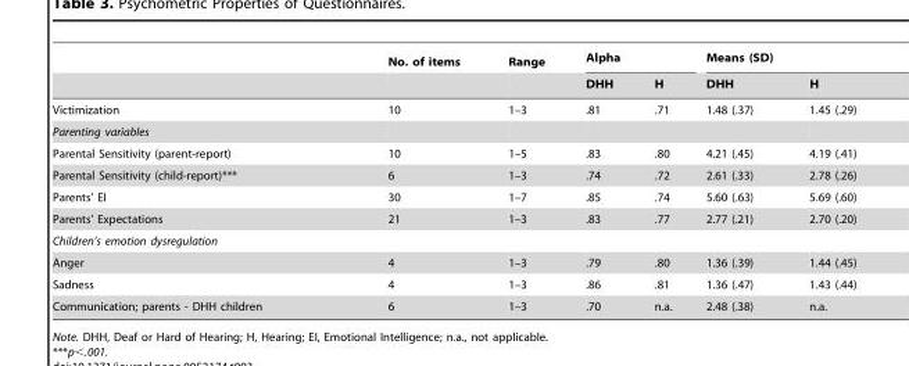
<table><thead><tr><td rowspan="2"></td><td rowspan="2">No. of items</td><td rowspan="2">Range</td><td colspan="2">Alpha</td><td colspan="2">Means (SD)</td></tr><tr><td>DHH</td><td>H</td><td>DHH</td><td>H</td></tr></thead><tbody><tr><td>Victimization</td><td>10</td><td>1–3</td><td>.81</td><td>.71</td><td>1.48 (.37)</td><td>1.45 (.29)</td></tr><tr><td colspan="7">Parenting variables</td></tr><tr><td>Parental Sensitivity (parent-report)</td><td>10</td><td>1–5</td><td>.83</td><td>.80</td><td>4.21 (.45)</td><td>4.19 (.41)</td></tr><tr><td>Parental Sensitivity (child-report)***</td><td>6</td><td>1–3</td><td>.74</td><td>.72</td><td>2.61 (.33)</td><td>2.78 (.26)</td></tr><tr><td>Parents’ EI</td><td>30</td><td>1–7</td><td>.85</td><td>.74</td><td>5.60 (.63)</td><td>5.69 (.60)</td></tr><tr><td>Parents’ Expectations</td><td>21</td><td>1–3</td><td>.83</td><td>.77</td><td>2.77 (.21)</td><td>2.70 (.20)</td></tr><tr><td colspan="7">Children’s emotion dysregulation</td></tr><tr><td>Anger</td><td>4</td><td>1–3</td><td>.79</td><td>.80</td><td>1.36 (.39)</td><td>1.44 (.45)</td></tr><tr><td>Sadness</td><td>4</td><td>1–3</td><td>.86</td><td>.81</td><td>1.36 (.47)</td><td>1.43 (.44)</td></tr><tr><td>Communication; parents - DHH children</td><td>6</td><td>1–3</td><td>.70</td><td>n.a.</td><td>2.48 (.38)</td><td>n.a.</td></tr></tbody></table>